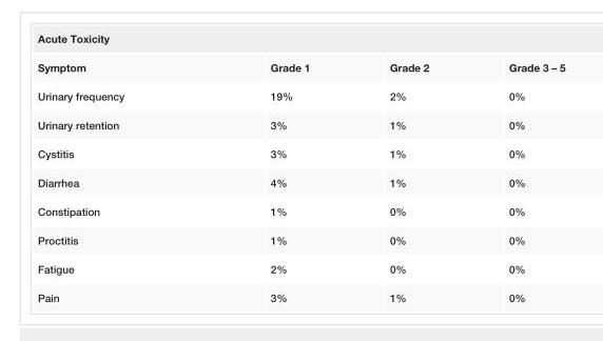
<table><tbody><tr><td colspan="4">Acute Toxicity</td></tr><tr><td>Symptom</td><td>Grade 1</td><td>Grade 2</td><td>Grade 3 – 5</td></tr><tr><td>Urinary frequency</td><td>19%</td><td>2%</td><td>0%</td></tr><tr><td>Urinary retention</td><td>3%</td><td>1%</td><td>0%</td></tr><tr><td>Cystitis</td><td>3%</td><td>1%</td><td>0%</td></tr><tr><td>Diarrhea</td><td>4%</td><td>1%</td><td>0%</td></tr><tr><td>Constipation</td><td>1%</td><td>0%</td><td>0%</td></tr><tr><td>Proctitis</td><td>1%</td><td>0%</td><td>0%</td></tr><tr><td>Fatigue</td><td>2%</td><td>0%</td><td>0%</td></tr><tr><td>Pain</td><td>3%</td><td>1%</td><td>0%</td></tr></tbody></table>